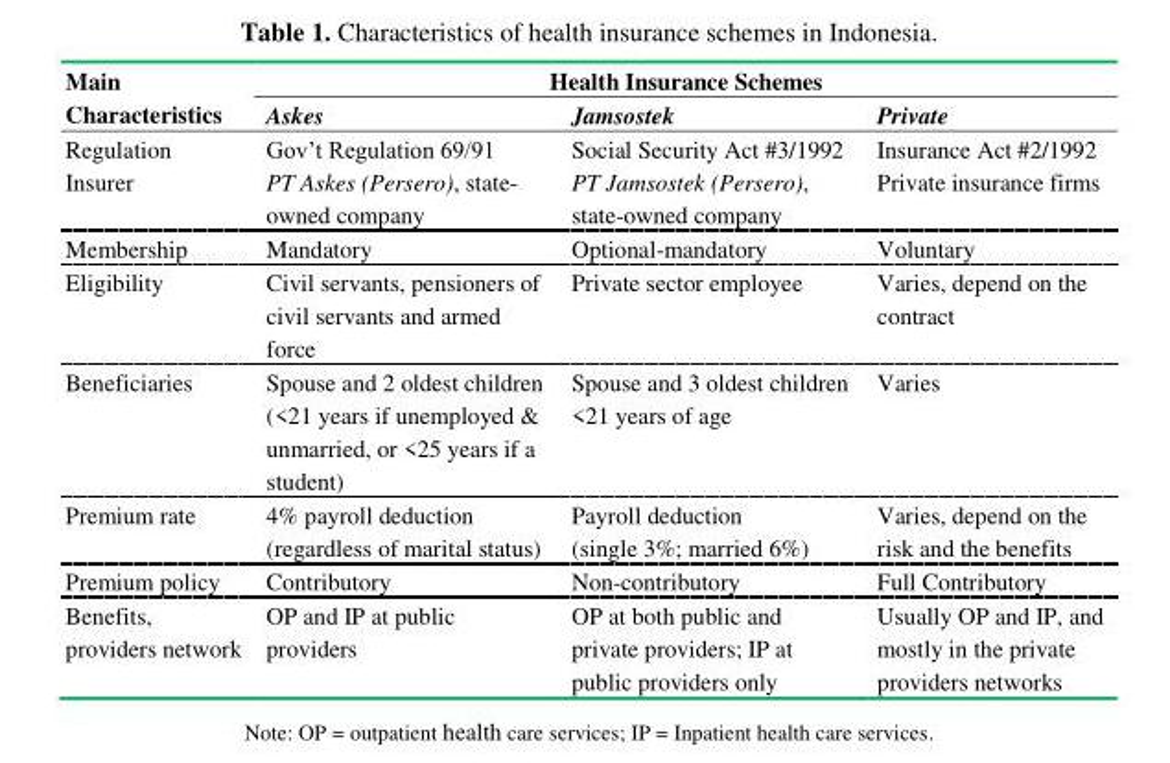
<table><thead><tr><td rowspan="2">Main Characteristics</td><td colspan="3">Health Insurance Schemes</td></tr><tr><td>Askes</td><td>Jamsostek</td><td>Private</td></tr></thead><tbody><tr><td>Regulation</td><td>Gov‟t Regulation 69/91</td><td>Social Security Act #3/1992</td><td>Insurance Act #2/1992</td></tr><tr><td>Insurer</td><td>PT Askes (Persero), state- owned company</td><td>PT Jamsostek (Persero), state-owned company</td><td>Private insurance firms</td></tr><tr><td>Membership</td><td>Mandatory</td><td>Optional-mandatory</td><td>Voluntary</td></tr><tr><td>Eligibility</td><td>Civil servants, pensioners of civil servants and armed force</td><td>Private sector employee</td><td>Varies, depend on the contract</td></tr><tr><td>Beneficiaries</td><td>Spouse and 2 oldest children (&lt;21 years if unemployed &amp; unmarried, or &lt;25 years if a student)</td><td>Spouse and 3 oldest children &lt;21 years of age</td><td>Varies</td></tr><tr><td>Premium rate</td><td>4% payroll deduction (regardless of marital status)</td><td>Payroll deduction (single 3%; married 6%)</td><td>Varies, depend on the risk and the benefits</td></tr><tr><td>Premium policy</td><td>Contributory</td><td>Non-contributory</td><td>Full Contributory</td></tr><tr><td>Benefits, providers network</td><td>OP and IP at public providers</td><td>OP at both public and private providers; IP at public providers only</td><td>Usually OP and IP, and mostly in the private providers networks</td></tr></tbody></table>